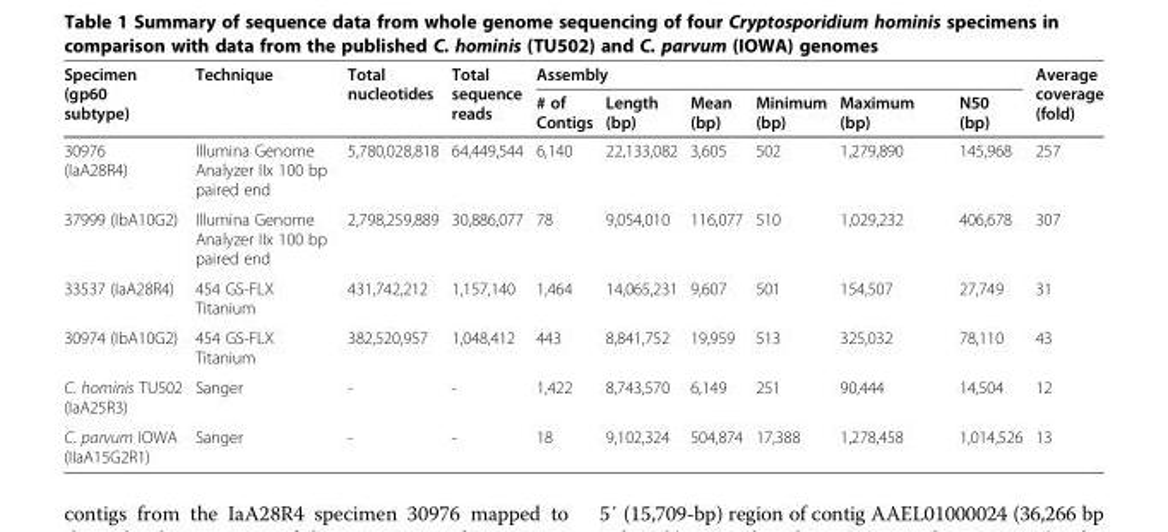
<table><thead><tr><td rowspan="2">Specimen (gp60 subtype)</td><td rowspan="2">Technique</td><td rowspan="2">Total nucleotides</td><td rowspan="2">Total sequence reads</td><td colspan="6">Assembly</td><td rowspan="2">Average coverage (fold)</td></tr><tr><td># of Contigs</td><td>Length (bp)</td><td>Mean (bp)</td><td>Minimum (bp)</td><td>Maximum (bp)</td><td>N50 (bp)</td></tr></thead><tbody><tr><td>30976 (IaA28R4)</td><td>Illumina Genome Analyzer IIx 100 bp paired end</td><td>5,780,028,818</td><td>64,449,544</td><td>6,140</td><td>22,133,082</td><td>3,605</td><td>502</td><td>1,279,890</td><td>145,968</td><td>257</td></tr><tr><td>37999 (IbA10G2)</td><td>Illumina Genome Analyzer IIx 100 bp paired end</td><td>2,798,259,889</td><td>30,886,077</td><td>78</td><td>9,054,010</td><td>116,077</td><td>510</td><td>1,029,232</td><td>406,678</td><td>307</td></tr><tr><td>33537 (IaA28R4)</td><td>454 GS-FLX Titanium</td><td>431,742,212</td><td>1,157,140</td><td>1,464</td><td>14,065,231</td><td>9,607</td><td>501</td><td>154,507</td><td>27,749</td><td>31</td></tr><tr><td>30974 (IbA10G2)</td><td>454 GS-FLX Titanium</td><td>382,520,957</td><td>1,048,412</td><td>443</td><td>8,841,752</td><td>19,959</td><td>513</td><td>325,032</td><td>78,110</td><td>43</td></tr><tr><td>C. hominis TU502 (IaA25R3)</td><td>Sanger</td><td>-</td><td>-</td><td>1,422</td><td>8,743,570</td><td>6,149</td><td>251</td><td>90,444</td><td>14,504</td><td>12</td></tr><tr><td>C. parvum IOWA (IIaA15G2R1)</td><td>Sanger</td><td>-</td><td>-</td><td>18</td><td>9,102,324</td><td>504,874</td><td>17,388</td><td>1,278,458</td><td>1,014,526</td><td>13</td></tr></tbody></table>